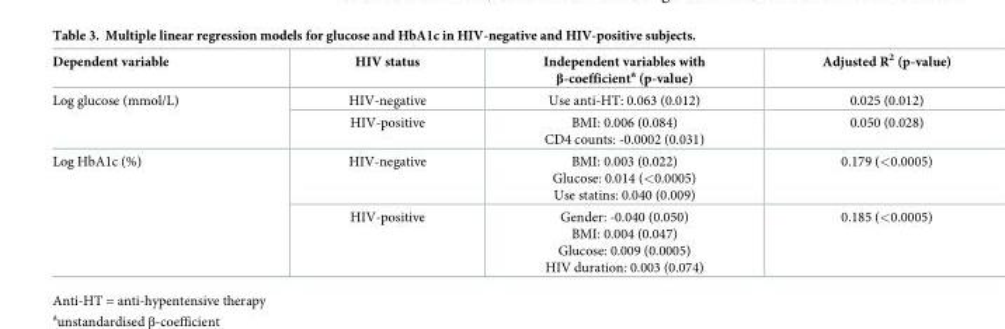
<table><thead><tr><td>Dependent variable</td><td>HIV status</td><td>Independent variables with β-coefficient<sup>a</sup> (p-value)</td><td>Adjusted R<sup>2</sup> (p-value)</td></tr></thead><tbody><tr><td rowspan="2">Log glucose (mmol/L)</td><td>HIV-negative</td><td>Use anti-HT: 0.063 (0.012)</td><td>0.025 (0.012)</td></tr><tr><td>HIV-positive</td><td>BMI: 0.006 (0.084) CD4 counts: -0.0002 (0.031)</td><td>0.050 (0.028)</td></tr><tr><td rowspan="2">Log HbA1c (%)</td><td>HIV-negative</td><td>BMI: 0.003 (0.022) Glucose: 0.014 (&lt;0.0005) Use statins: 0.040 (0.009)</td><td>0.179 (&lt;0.0005)</td></tr><tr><td>HIV-positive</td><td>Gender: -0.040 (0.050) BMI: 0.004 (0.047) Glucose: 0.009 (0.0005) HIV duration: 0.003 (0.074)</td><td>0.185 (&lt;0.0005)</td></tr></tbody></table>